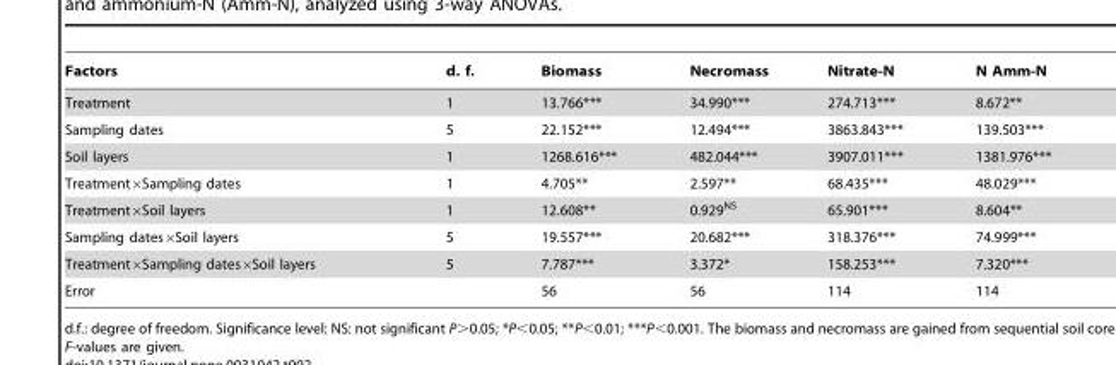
<table><thead><tr><td>Factors</td><td>d. f.</td><td>Biomass</td><td>Necromass</td><td>Nitrate-N</td><td>N Amm-N</td></tr></thead><tbody><tr><td>Treatment</td><td>1</td><td>13.766***</td><td>34.990***</td><td>274.713***</td><td>8.672**</td></tr><tr><td>Sampling dates</td><td>5</td><td>22.152***</td><td>12.494***</td><td>3863.843***</td><td>139.503***</td></tr><tr><td>Soil layers</td><td>1</td><td>1268.616***</td><td>482.044***</td><td>3907.011***</td><td>1381.976***</td></tr><tr><td>Treatment×Sampling dates</td><td>1</td><td>4.705**</td><td>2.597**</td><td>68.435***</td><td>48.029***</td></tr><tr><td>Treatment×Soil layers</td><td>1</td><td>12.608**</td><td>0.929<sup>NS</sup></td><td>65.901***</td><td>8.604**</td></tr><tr><td>Sampling dates×Soil layers</td><td>5</td><td>19.557***</td><td>20.682***</td><td>318.376***</td><td>74.999***</td></tr><tr><td>Treatment×Sampling dates×Soil layers</td><td>5</td><td>7.787***</td><td>3.372*</td><td>158.253***</td><td>7.320***</td></tr><tr><td>Error</td><td></td><td>56</td><td>56</td><td>114</td><td>114</td></tr></tbody></table>